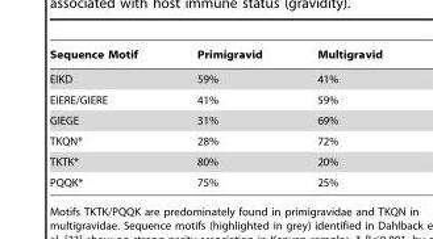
<table><thead><tr><td>Sequence Motif</td><td>Primigravid</td><td>Multigravid</td></tr></thead><tbody><tr><td>EIKD</td><td>59%</td><td>41%</td></tr><tr><td>EIERE/GIERE</td><td>41%</td><td>59%</td></tr><tr><td>GIEGE</td><td>31%</td><td>69%</td></tr><tr><td>TKQN*</td><td>28%</td><td>72%</td></tr><tr><td>TKTK*</td><td>80%</td><td>20%</td></tr><tr><td>PQQK*</td><td>75%</td><td>25%</td></tr></tbody></table>